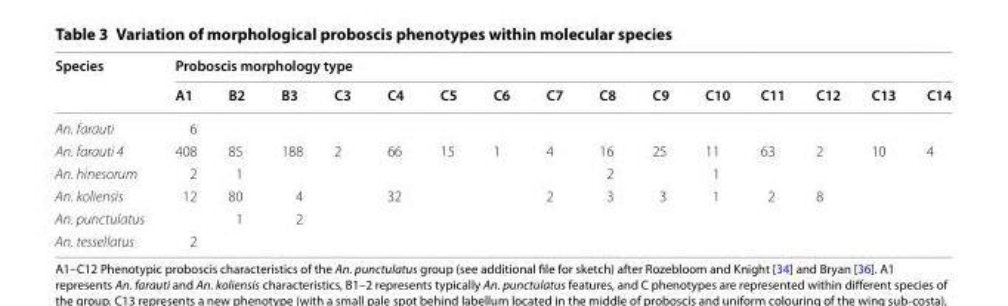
<table><thead><tr><td rowspan="2">Species</td><td colspan="15">Proboscis morphology type</td></tr><tr><td>A1</td><td>B2</td><td>B3</td><td>C3</td><td>C4</td><td>C5</td><td>C6</td><td>C7</td><td>C8</td><td>C9</td><td>C10</td><td>C11</td><td>C12</td><td>C13</td><td>C14</td></tr></thead><tbody><tr><td>An. farauti</td><td>6</td><td></td><td></td><td></td><td></td><td></td><td></td><td></td><td></td><td></td><td></td><td></td><td></td><td></td><td></td></tr><tr><td>An. farauti 4</td><td>408</td><td>85</td><td>188</td><td>2</td><td>66</td><td>15</td><td>1</td><td>4</td><td>16</td><td>25</td><td>11</td><td>63</td><td>2</td><td>10</td><td>4</td></tr><tr><td>An. hinesorum</td><td>2</td><td>1</td><td></td><td></td><td></td><td></td><td></td><td></td><td>2</td><td></td><td>1</td><td></td><td></td><td></td><td></td></tr><tr><td>An. koliensis</td><td>12</td><td>80</td><td>4</td><td></td><td>32</td><td></td><td></td><td>2</td><td>3</td><td>3</td><td>1</td><td>2</td><td>8</td><td></td><td></td></tr><tr><td>An. punctulatus</td><td></td><td>1</td><td>2</td><td></td><td></td><td></td><td></td><td></td><td></td><td></td><td></td><td></td><td></td><td></td><td></td></tr><tr><td>An. tessellatus</td><td>2</td><td></td><td></td><td></td><td></td><td></td><td></td><td></td><td></td><td></td><td></td><td></td><td></td><td></td><td></td></tr></tbody></table>